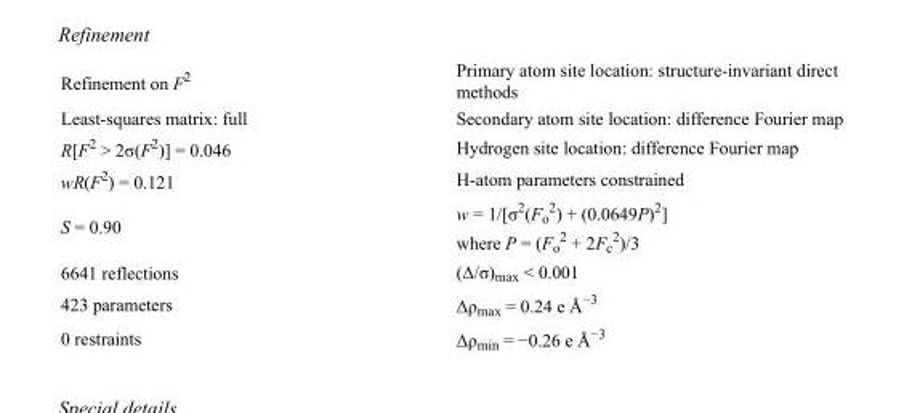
<table><tbody><tr><td>Refinement on F<sup>2</sup></td><td>Primary atom site location: structure-invariant direct methods</td></tr><tr><td>Least-squares matrix: full</td><td>Secondary atom site location: difference Fourier map</td></tr><tr><td>R[F<sup>2</sup> &gt; 2σ(F<sup>2</sup>)] = 0.046</td><td>Hydrogen site location: difference Fourier map</td></tr><tr><td>wR(F<sup>2</sup>) = 0.121</td><td>H-atom parameters constrained</td></tr><tr><td>S = 0.90</td><td>w = 1/[σ<sup>2</sup>(F<sub>o</sub> <sup>2</sup>) + (0.0649P)<sup>2</sup>] where P = (F<sub>o</sub> <sup>2</sup> + 2F<sub>c</sub> <sup>2</sup>)/3</td></tr><tr><td>6641 reflections</td><td>(Δ/σ)<sub>max</sub> &lt; 0.001</td></tr><tr><td>423 parameters</td><td>Δρ<sub>max</sub> = 0.24 e Å<sup>−3</sup></td></tr><tr><td>0 restraints</td><td>Δρ<sub>min</sub> = −0.26 e Å<sup>−3</sup></td></tr></tbody></table>